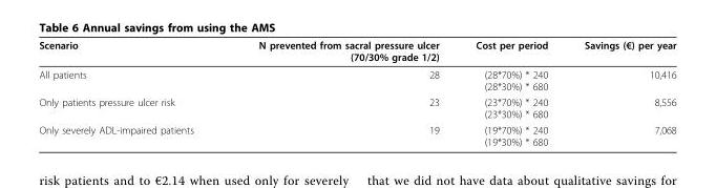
<table><thead><tr><td>Scenario</td><td>N prevented from sacral pressure ulcer (70/30% grade 1/2)</td><td>Cost per period</td><td>Savings (€) per year</td></tr></thead><tbody><tr><td>All patients</td><td>28</td><td>(28*70%) * 240 (28*30%) * 680</td><td>10,416</td></tr><tr><td>Only patients pressure ulcer risk</td><td>23</td><td>(23*70%) * 240 (23*30%) * 680</td><td>8,556</td></tr><tr><td>Only severely ADL-impaired patients</td><td>19</td><td>(19*70%) * 240 (19*30%) * 680</td><td>7,068</td></tr></tbody></table>